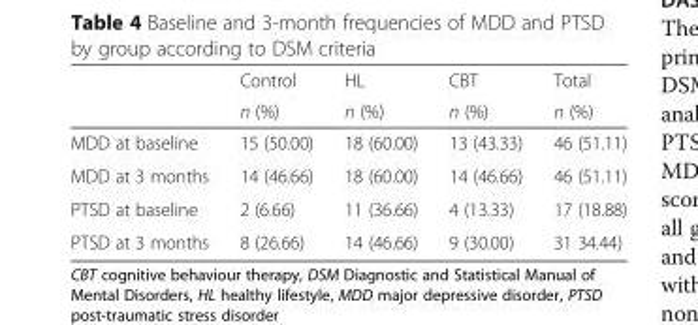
<table><thead><tr><td rowspan="2"></td><td rowspan="2">Control n (%)</td><td rowspan="2">HL n (%)</td><td rowspan="2">CBT n (%)</td><td rowspan="2">Total n (%)</td></tr><tr></tr></thead><tbody><tr><td>MDD at baseline</td><td>15 (50.00)</td><td>18 (60.00)</td><td>13 (43.33)</td><td>46 (51.11)</td></tr><tr><td>MDD at 3 months</td><td>14 (46.66)</td><td>18 (60.00)</td><td>14 (46.66)</td><td>46 (51.11)</td></tr><tr><td>PTSD at baseline</td><td>2 (6.66)</td><td>11 (36.66)</td><td>4 (13.33)</td><td>17 (18.88)</td></tr><tr><td>PTSD at 3 months</td><td>8 (26.66)</td><td>14 (46.66)</td><td>9 (30.00)</td><td>31 34.44)</td></tr></tbody></table>